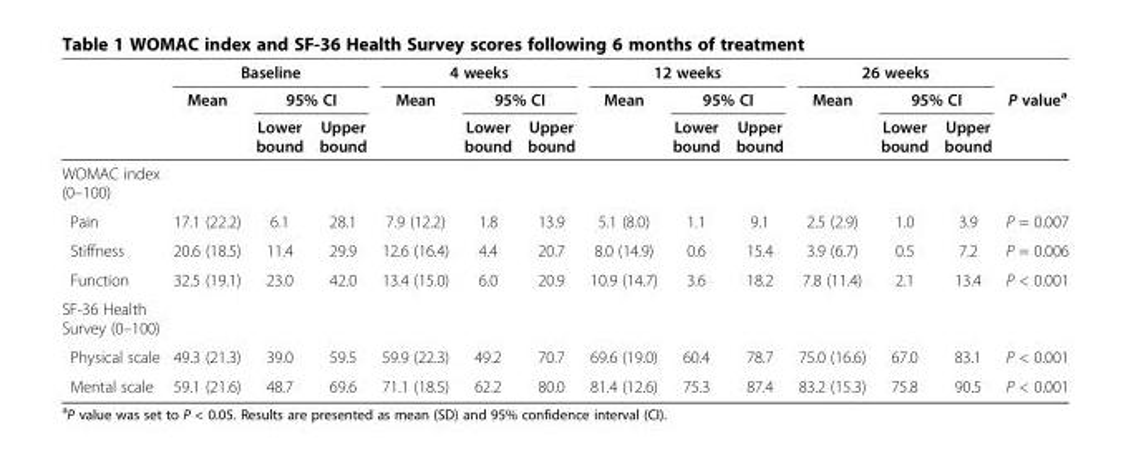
<table><thead><tr><td rowspan="3"></td><td colspan="3">Baseline</td><td colspan="3">4 weeks</td><td colspan="3">12 weeks</td><td colspan="3">26 weeks</td><td rowspan="3">P value<sup>a</sup></td></tr><tr><td rowspan="2">Mean</td><td colspan="2">95% CI</td><td rowspan="2">Mean</td><td colspan="2">95% CI</td><td rowspan="2">Mean</td><td colspan="2">95% CI</td><td rowspan="2">Mean</td><td colspan="2">95% CI</td></tr><tr><td>Lower bound</td><td>Upper bound</td><td>Lower bound</td><td>Upper bound</td><td>Lower bound</td><td>Upper bound</td><td>Lower bound</td><td>Upper bound</td></tr></thead><tbody><tr><td colspan="14">WOMAC index (0–100)</td></tr><tr><td>Pain</td><td>17.1 (22.2)</td><td>6.1</td><td>28.1</td><td>7.9 (12.2)</td><td>1.8</td><td>13.9</td><td>5.1 (8.0)</td><td>1.1</td><td>9.1</td><td>2.5 (2.9)</td><td>1.0</td><td>3.9</td><td>P = 0.007</td></tr><tr><td>Stiffness</td><td>20.6 (18.5)</td><td>11.4</td><td>29.9</td><td>12.6 (16.4)</td><td>4.4</td><td>20.7</td><td>8.0 (14.9)</td><td>0.6</td><td>15.4</td><td>3.9 (6.7)</td><td>0.5</td><td>7.2</td><td>P = 0.006</td></tr><tr><td>Function</td><td>32.5 (19.1)</td><td>23.0</td><td>42.0</td><td>13.4 (15.0)</td><td>6.0</td><td>20.9</td><td>10.9 (14.7)</td><td>3.6</td><td>18.2</td><td>7.8 (11.4)</td><td>2.1</td><td>13.4</td><td>P &lt; 0.001</td></tr><tr><td colspan="14">SF-36 Health Survey (0–100)</td></tr><tr><td>Physical scale</td><td>49.3 (21.3)</td><td>39.0</td><td>59.5</td><td>59.9 (22.3)</td><td>49.2</td><td>70.7</td><td>69.6 (19.0)</td><td>60.4</td><td>78.7</td><td>75.0 (16.6)</td><td>67.0</td><td>83.1</td><td>P &lt; 0.001</td></tr><tr><td>Mental scale</td><td>59.1 (21.6)</td><td>48.7</td><td>69.6</td><td>71.1 (18.5)</td><td>62.2</td><td>80.0</td><td>81.4 (12.6)</td><td>75.3</td><td>87.4</td><td>83.2 (15.3)</td><td>75.8</td><td>90.5</td><td>P &lt; 0.001</td></tr></tbody></table>